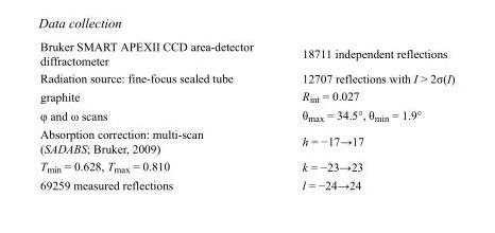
<table><tbody><tr><td>Bruker SMART APEXII CCD area-detector diffractometer</td><td>18711 independent reflections</td></tr><tr><td>Radiation source: fine-focus sealed tube</td><td>12707 reflections with I &gt; 2σ(I)</td></tr><tr><td>graphite</td><td>R<sub>int</sub> = 0.027</td></tr><tr><td>φ and ω scans</td><td>θ<sub>max</sub> = 34.5°, θ<sub>min</sub> = 1.9°</td></tr><tr><td>Absorption correction: multi-scan (SADABS; Bruker, 2009)</td><td>h = −17→17</td></tr><tr><td>T<sub>min</sub> = 0.628, T<sub>max</sub> = 0.810</td><td>k = −23→23</td></tr><tr><td>69259 measured reflections</td><td>l = −24→24</td></tr></tbody></table>